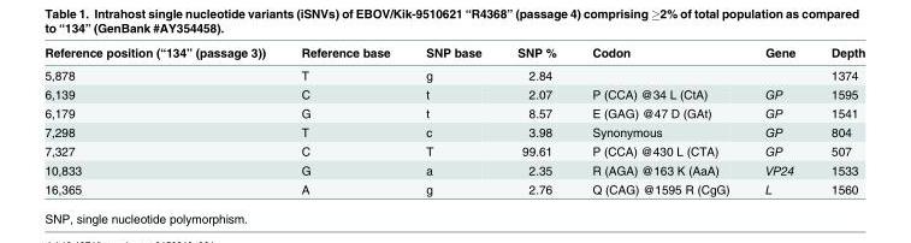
<table><thead><tr><td>Reference position (“134” (passage 3))</td><td>Reference base</td><td>SNP base</td><td>SNP %</td><td>Codon</td><td>Gene</td><td>Depth</td></tr></thead><tbody><tr><td>5,878</td><td>T</td><td>g</td><td>2.84</td><td></td><td></td><td>1374</td></tr><tr><td>6,139</td><td>C</td><td>t</td><td>2.07</td><td>P (CCA) @34 L (CtA)</td><td>GP</td><td>1595</td></tr><tr><td>6,179</td><td>G</td><td>t</td><td>8.57</td><td>E (GAG) @47 D (GAt)</td><td>GP</td><td>1541</td></tr><tr><td>7,298</td><td>T</td><td>c</td><td>3.98</td><td>Synonymous</td><td>GP</td><td>804</td></tr><tr><td>7,327</td><td>C</td><td>T</td><td>99.61</td><td>P (CCA) @430 L (CTA)</td><td>GP</td><td>507</td></tr><tr><td>10,833</td><td>G</td><td>a</td><td>2.35</td><td>R (AGA) @163 K (AaA)</td><td>VP24</td><td>1533</td></tr><tr><td>16,365</td><td>A</td><td>g</td><td>2.76</td><td>Q (CAG) @1595 R (CgG)</td><td>L</td><td>1560</td></tr></tbody></table>